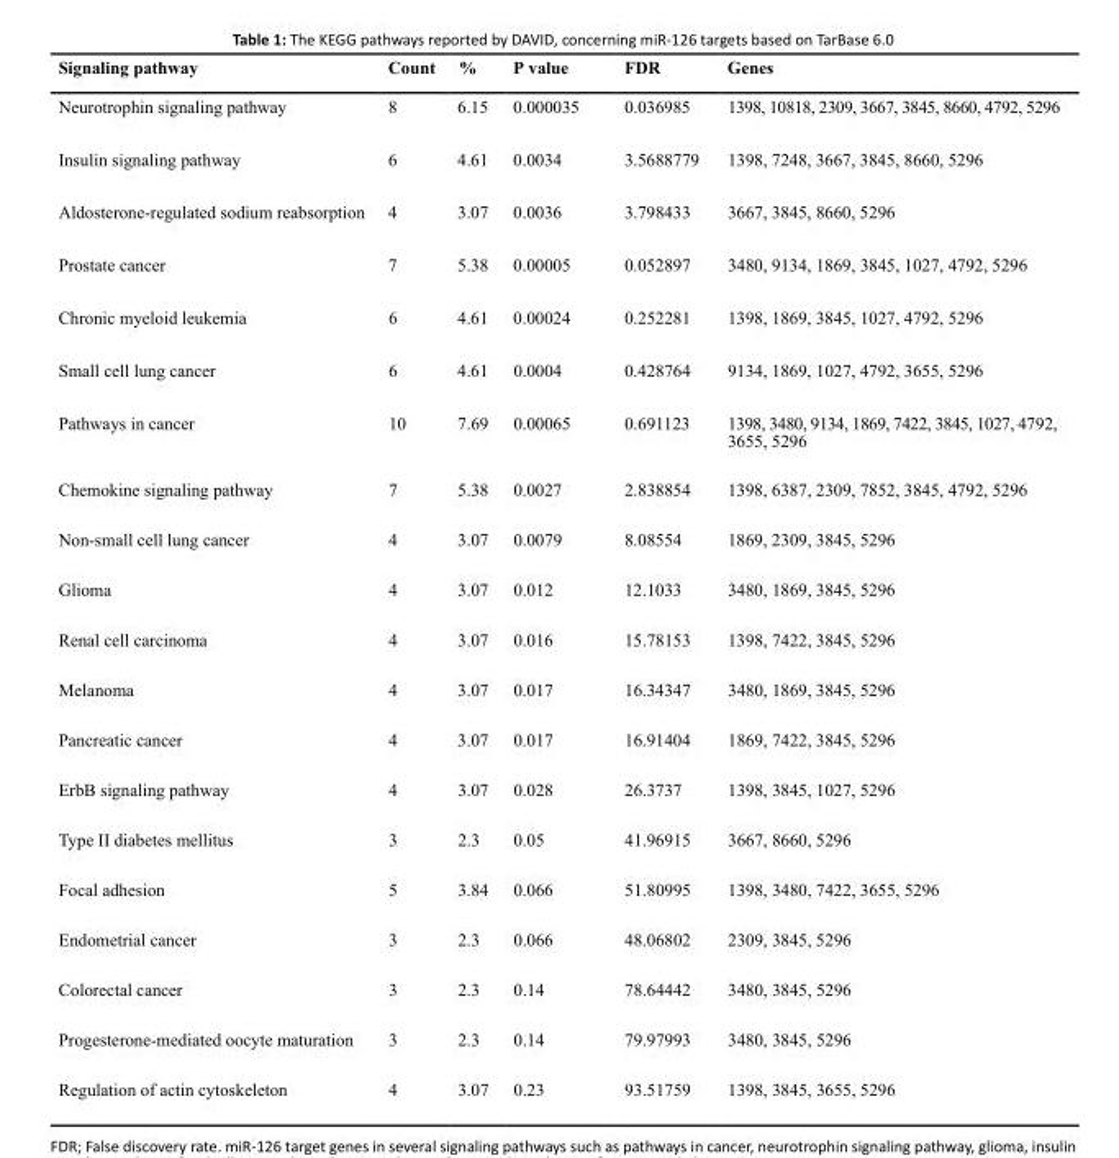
<table><thead><tr><td>Signaling pathway</td><td>Count</td><td>%</td><td>P value</td><td>FDR</td><td>Genes</td></tr></thead><tbody><tr><td>Neurotrophin signaling pathway</td><td>8</td><td>6.15</td><td>0.000035</td><td>0.036985</td><td>1398, 10818, 2309, 3667, 3845, 8660, 4792, 5296</td></tr><tr><td>Insulin signaling pathway</td><td>6</td><td>4.61</td><td>0.0034</td><td>3.5688779</td><td>1398, 7248, 3667, 3845, 8660, 5296</td></tr><tr><td>Aldosterone-regulated sodium reabsorption</td><td>4</td><td>3.07</td><td>0.0036</td><td>3.798433</td><td>3667, 3845, 8660, 5296</td></tr><tr><td>Prostate cancer</td><td>7</td><td>5.38</td><td>0.00005</td><td>0.052897</td><td>3480, 9134, 1869, 3845, 1027, 4792, 5296</td></tr><tr><td>Chronic myeloid leukemia</td><td>6</td><td>4.61</td><td>0.00024</td><td>0.252281</td><td>1398, 1869, 3845, 1027, 4792, 5296</td></tr><tr><td>Small cell lung cancer</td><td>6</td><td>4.61</td><td>0.0004</td><td>0.428764</td><td>9134, 1869, 1027, 4792, 3655, 5296</td></tr><tr><td>Pathways in cancer</td><td>10</td><td>7.69</td><td>0.00065</td><td>0.691123</td><td>1398, 3480, 9134, 1869, 7422, 3845, 1027, 4792, 3655, 5296</td></tr><tr><td>Chemokine signaling pathway</td><td>7</td><td>5.38</td><td>0.0027</td><td>2.838854</td><td>1398, 6387, 2309, 7852, 3845, 4792, 5296</td></tr><tr><td>Non-small cell lung cancer</td><td>4</td><td>3.07</td><td>0.0079</td><td>8.08554</td><td>1869, 2309, 3845, 5296</td></tr><tr><td>Glioma</td><td>4</td><td>3.07</td><td>0.012</td><td>12.1033</td><td>3480, 1869, 3845, 5296</td></tr><tr><td>Renal cell carcinoma</td><td>4</td><td>3.07</td><td>0.016</td><td>15.78153</td><td>1398, 7422, 3845, 5296</td></tr><tr><td>Melanoma</td><td>4</td><td>3.07</td><td>0.017</td><td>16.34347</td><td>3480, 1869, 3845, 5296</td></tr><tr><td>Pancreatic cancer</td><td>4</td><td>3.07</td><td>0.017</td><td>16.91404</td><td>1869, 7422, 3845, 5296</td></tr><tr><td>ErbB signaling pathway</td><td>4</td><td>3.07</td><td>0.028</td><td>26.3737</td><td>1398, 3845, 1027, 5296</td></tr><tr><td>Type II diabetes mellitus</td><td>3</td><td>2.3</td><td>0.05</td><td>41.96915</td><td>3667, 8660, 5296</td></tr><tr><td>Focal adhesion</td><td>5</td><td>3.84</td><td>0.066</td><td>51.80995</td><td>1398, 3480, 7422, 3655, 5296</td></tr><tr><td>Endometrial cancer</td><td>3</td><td>2.3</td><td>0.066</td><td>48.06802</td><td>2309, 3845, 5296</td></tr><tr><td>Colorectal cancer</td><td>3</td><td>2.3</td><td>0.14</td><td>78.64442</td><td>3480, 3845, 5296</td></tr><tr><td>Progesterone-mediated oocyte maturation</td><td>3</td><td>2.3</td><td>0.14</td><td>79.97993</td><td>3480, 3845, 5296</td></tr><tr><td>Regulation of actin cytoskeleton</td><td>4</td><td>3.07</td><td>0.23</td><td>93.51759</td><td>1398, 3845, 3655, 5296</td></tr></tbody></table>